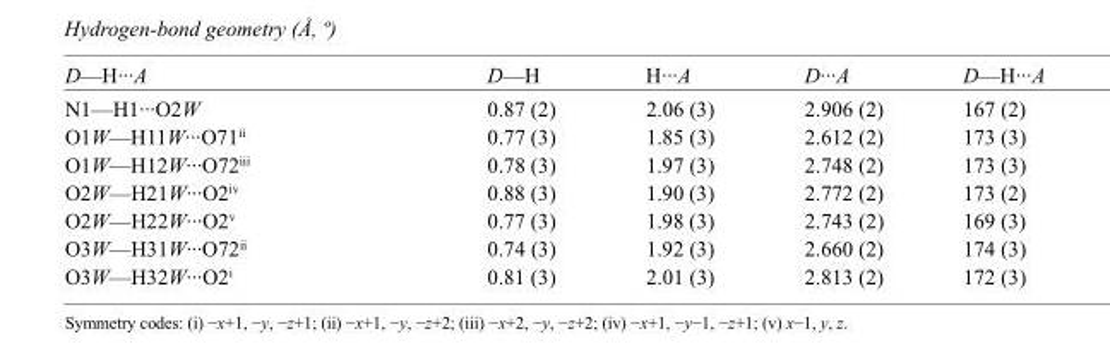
<table><tbody><tr><td>D—H···A</td><td>D—H</td><td>H···A</td><td>D···A</td><td>D—H···A</td></tr><tr><td>N1—H1···O2W</td><td>0.87 (2)</td><td>2.06 (3)</td><td>2.906 (2)</td><td>167 (2)</td></tr><tr><td>O1W—H11W···O71<sup>ii</sup></td><td>0.77 (3)</td><td>1.85 (3)</td><td>2.612 (2)</td><td>173 (3)</td></tr><tr><td>O1W—H12W···O72<sup>iii</sup></td><td>0.78 (3)</td><td>1.97 (3)</td><td>2.748 (2)</td><td>173 (3)</td></tr><tr><td>O2W—H21W···O2<sup>iv</sup></td><td>0.88 (3)</td><td>1.90 (3)</td><td>2.772 (2)</td><td>173 (2)</td></tr><tr><td>O2W—H22W···O2<sup>v</sup></td><td>0.77 (3)</td><td>1.98 (3)</td><td>2.743 (2)</td><td>169 (3)</td></tr><tr><td>O3W—H31W···O72<sup>ii</sup></td><td>0.74 (3)</td><td>1.92 (3)</td><td>2.660 (2)</td><td>174 (3)</td></tr><tr><td>O3W—H32W···O2<sup>i</sup></td><td>0.81 (3)</td><td>2.01 (3)</td><td>2.813 (2)</td><td>172 (3)</td></tr></tbody></table>